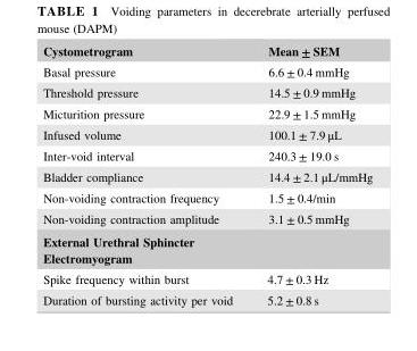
<table><thead><tr><td>Cystometrogram</td><td>Mean ± SEM</td></tr></thead><tbody><tr><td>Basal pressure</td><td>6.6 ± 0.4 mmHg</td></tr><tr><td>Threshold pressure</td><td>14.5 ± 0.9 mmHg</td></tr><tr><td>Micturition pressure</td><td>22.9 ± 1.5 mmHg</td></tr><tr><td>Infused volume</td><td>100.1 ± 7.9 μL</td></tr><tr><td>Inter-void interval</td><td>240.3 ± 19.0 s</td></tr><tr><td>Bladder compliance</td><td>14.4 ± 2.1 μL/mmHg</td></tr><tr><td>Non-voiding contraction frequency</td><td>1.5 ± 0.4/min</td></tr><tr><td>Non-voiding contraction amplitude</td><td>3.1 ± 0.5 mmHg</td></tr><tr><td colspan="2">External Urethral Sphincter Electromyogram</td></tr><tr><td>Spike frequency within burst</td><td>4.7 ± 0.3 Hz</td></tr><tr><td>Duration of bursting activity per void</td><td>5.2 ± 0.8 s</td></tr></tbody></table>